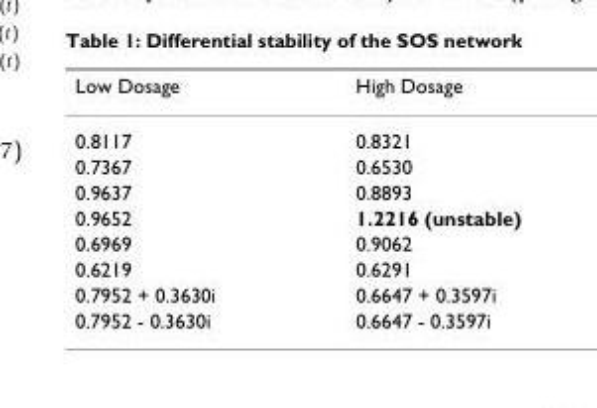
<table><thead><tr><td>Low Dosage</td><td>High Dosage</td></tr></thead><tbody><tr><td>0.8117</td><td>0.8321</td></tr><tr><td>0.7367</td><td>0.6530</td></tr><tr><td>0.9637</td><td>0.8893</td></tr><tr><td>0.9652</td><td>1.2216 (unstable)</td></tr><tr><td>0.6969</td><td>0.9062</td></tr><tr><td>0.6219</td><td>0.6291</td></tr><tr><td>0.7952 + 0.3630i</td><td>0.6647 + 0.3597i</td></tr><tr><td>0.7952 - 0.3630i</td><td>0.6647 - 0.3597i</td></tr></tbody></table>